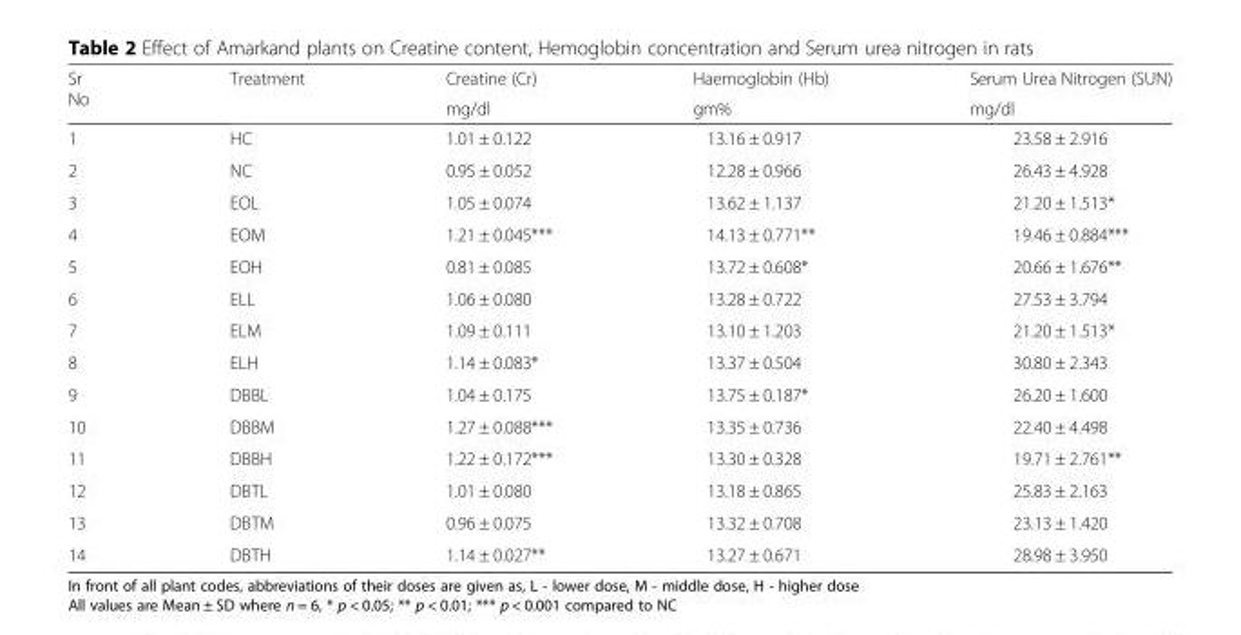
<table><thead><tr><td rowspan="2">Sr No</td><td rowspan="2">Treatment</td><td rowspan="2">Creatine (Cr) mg/dl</td><td rowspan="2">Haemoglobin (Hb) gm%</td><td rowspan="2">Serum Urea Nitrogen (SUN) mg/dl</td></tr><tr></tr></thead><tbody><tr><td>1</td><td>HC</td><td>1.01 ± 0.122</td><td>13.16 ± 0.917</td><td>23.58 ± 2.916</td></tr><tr><td>2</td><td>NC</td><td>0.95 ± 0.052</td><td>12.28 ± 0.966</td><td>26.43 ± 4.928</td></tr><tr><td>3</td><td>EOL</td><td>1.05 ± 0.074</td><td>13.62 ± 1.137</td><td>21.20 ± 1.513*</td></tr><tr><td>4</td><td>EOM</td><td>1.21 ± 0.045***</td><td>14.13 ± 0.771**</td><td>19.46 ± 0.884***</td></tr><tr><td>5</td><td>EOH</td><td>0.81 ± 0.085</td><td>13.72 ± 0.608*</td><td>20.66 ± 1.676**</td></tr><tr><td>6</td><td>ELL</td><td>1.06 ± 0.080</td><td>13.28 ± 0.722</td><td>27.53 ± 3.794</td></tr><tr><td>7</td><td>ELM</td><td>1.09 ± 0.111</td><td>13.10 ± 1.203</td><td>21.20 ± 1.513*</td></tr><tr><td>8</td><td>ELH</td><td>1.14 ± 0.083*</td><td>13.37 ± 0.504</td><td>30.80 ± 2.343</td></tr><tr><td>9</td><td>DBBL</td><td>1.04 ± 0.175</td><td>13.75 ± 0.187*</td><td>26.20 ± 1.600</td></tr><tr><td>10</td><td>DBBM</td><td>1.27 ± 0.088***</td><td>13.35 ± 0.736</td><td>22.40 ± 4.498</td></tr><tr><td>11</td><td>DBBH</td><td>1.22 ± 0.172***</td><td>13.30 ± 0.328</td><td>19.71 ± 2.761**</td></tr><tr><td>12</td><td>DBTL</td><td>1.01 ± 0.080</td><td>13.18 ± 0.865</td><td>25.83 ± 2.163</td></tr><tr><td>13</td><td>DBTM</td><td>0.96 ± 0.075</td><td>13.32 ± 0.708</td><td>23.13 ± 1.420</td></tr><tr><td>14</td><td>DBTH</td><td>1.14 ± 0.027**</td><td>13.27 ± 0.671</td><td>28.98 ± 3.950</td></tr></tbody></table>